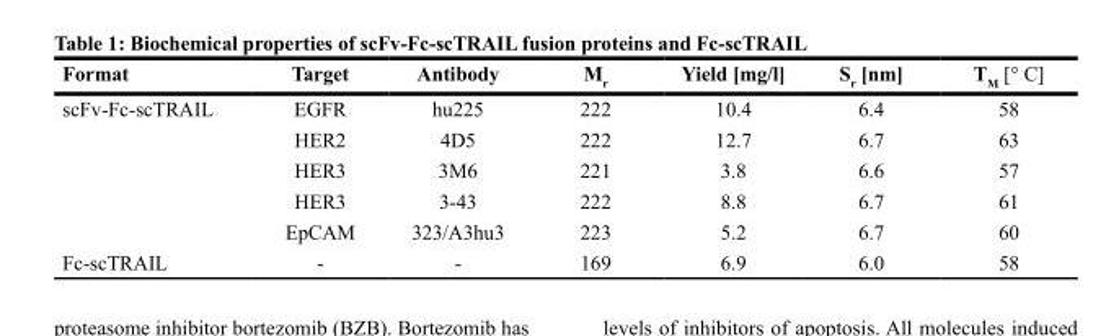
<table><thead><tr><td>Format</td><td>Target</td><td>Antibody</td><td>M<sub>r</sub></td><td>Yield [mg/l]</td><td>S<sub>r</sub> [nm]</td><td>T<sub>M</sub> [° C]</td></tr></thead><tbody><tr><td rowspan="5">scFv-Fc-scTRAIL</td><td>EGFR</td><td>hu225</td><td>222</td><td>10.4</td><td>6.4</td><td>58</td></tr><tr><td>HER2</td><td>4D5</td><td>222</td><td>12.7</td><td>6.7</td><td>63</td></tr><tr><td>HER3</td><td>3M6</td><td>221</td><td>3.8</td><td>6.6</td><td>57</td></tr><tr><td>HER3</td><td>3-43</td><td>222</td><td>8.8</td><td>6.7</td><td>61</td></tr><tr><td>EpCAM</td><td>323/A3hu3</td><td>223</td><td>5.2</td><td>6.7</td><td>60</td></tr><tr><td>Fc-scTRAIL</td><td>-</td><td>-</td><td>169</td><td>6.9</td><td>6.0</td><td>58</td></tr></tbody></table>